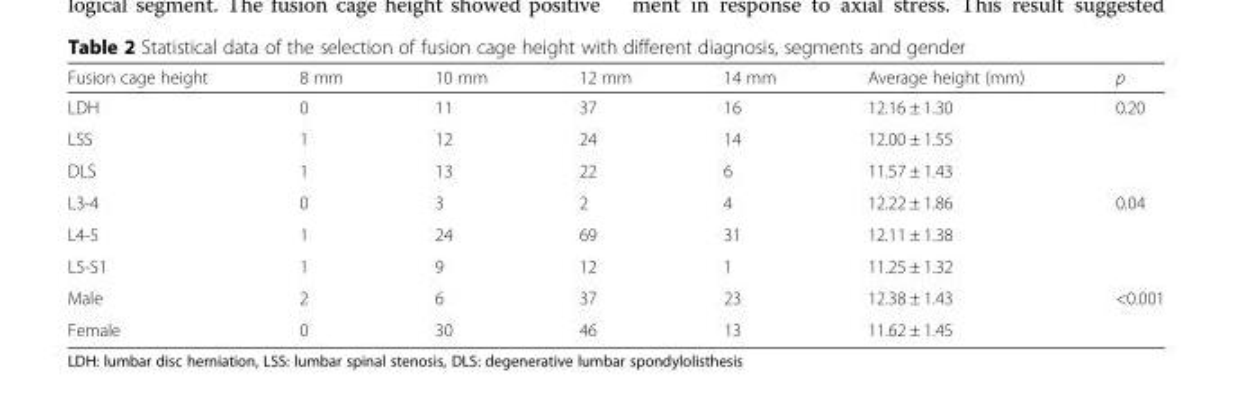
<table><thead><tr><td>Fusion cage height</td><td>8 mm</td><td>10 mm</td><td>12 mm</td><td>14 mm</td><td>Average height (mm)</td><td>p</td></tr></thead><tbody><tr><td>LDH</td><td>0</td><td>11</td><td>37</td><td>16</td><td>12.16 ± 1.30</td><td rowspan="3">0.20</td></tr><tr><td>LSS</td><td>1</td><td>12</td><td>24</td><td>14</td><td>12.00 ± 1.55</td></tr><tr><td>DLS</td><td>1</td><td>13</td><td>22</td><td>6</td><td>11.57 ± 1.43</td></tr><tr><td>L3-4</td><td>0</td><td>3</td><td>2</td><td>4</td><td>12.22 ± 1.86</td><td rowspan="3">0.04</td></tr><tr><td>L4-5</td><td>1</td><td>24</td><td>69</td><td>31</td><td>12.11 ± 1.38</td></tr><tr><td>L5-S1</td><td>1</td><td>9</td><td>12</td><td>1</td><td>11.25 ± 1.32</td></tr><tr><td>Male</td><td>2</td><td>6</td><td>37</td><td>23</td><td>12.38 ± 1.43</td><td rowspan="2">&lt;0.001</td></tr><tr><td>Female</td><td>0</td><td>30</td><td>46</td><td>13</td><td>11.62 ± 1.45</td></tr></tbody></table>